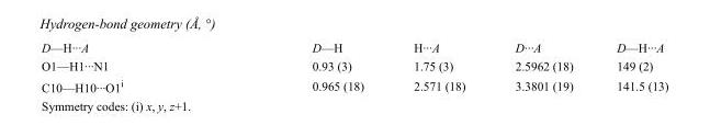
<table><tbody><tr><td>D—H···A</td><td>D—H</td><td>H···A</td><td>D···A</td><td>D—H···A</td></tr><tr><td>O1—H1···N1</td><td>0.93 (3)</td><td>1.75 (3)</td><td>2.5962 (18)</td><td>149 (2)</td></tr><tr><td>C10—H10···O1<sup>i</sup></td><td>0.965 (18)</td><td>2.571 (18)</td><td>3.3801 (19)</td><td>141.5 (13)</td></tr></tbody></table>